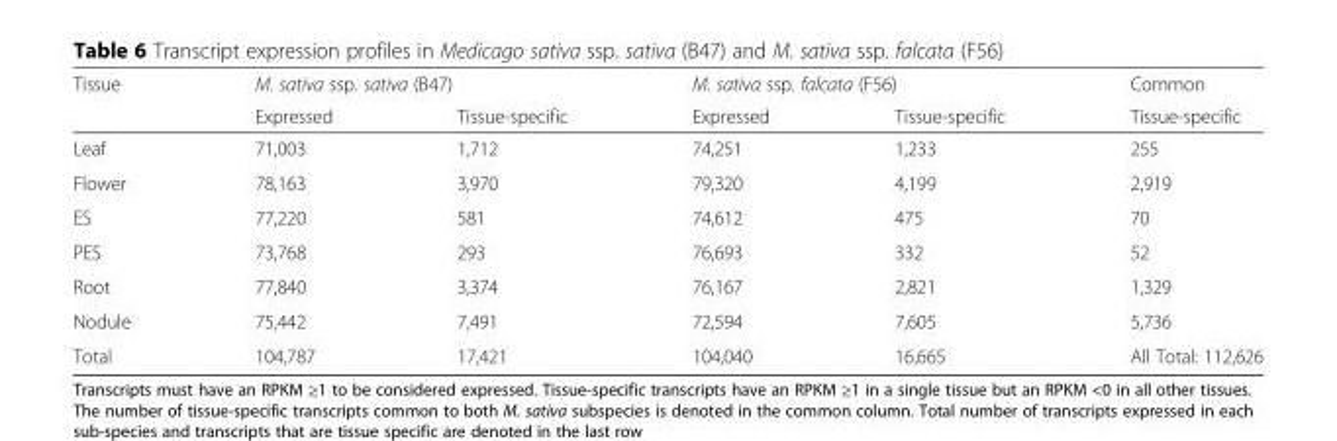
<table><thead><tr><td rowspan="2">Tissue</td><td colspan="2">M. sativa ssp. sativa (B47)</td><td colspan="2">M. sativa ssp. falcata (F56)</td><td rowspan="2">Common Tissue-specific</td></tr><tr><td>Expressed</td><td>Tissue-specific</td><td>Expressed</td><td>Tissue-specific</td></tr></thead><tbody><tr><td>Leaf</td><td>71,003</td><td>1,712</td><td>74,251</td><td>1,233</td><td>255</td></tr><tr><td>Flower</td><td>78,163</td><td>3,970</td><td>79,320</td><td>4,199</td><td>2,919</td></tr><tr><td>ES</td><td>77,220</td><td>581</td><td>74,612</td><td>475</td><td>70</td></tr><tr><td>PES</td><td>73,768</td><td>293</td><td>76,693</td><td>332</td><td>52</td></tr><tr><td>Root</td><td>77,840</td><td>3,374</td><td>76,167</td><td>2,821</td><td>1,329</td></tr><tr><td>Nodule</td><td>75,442</td><td>7,491</td><td>72,594</td><td>7,605</td><td>5,736</td></tr><tr><td>Total</td><td>104,787</td><td>17,421</td><td>104,040</td><td>16,665</td><td>All Total: 112,626</td></tr></tbody></table>